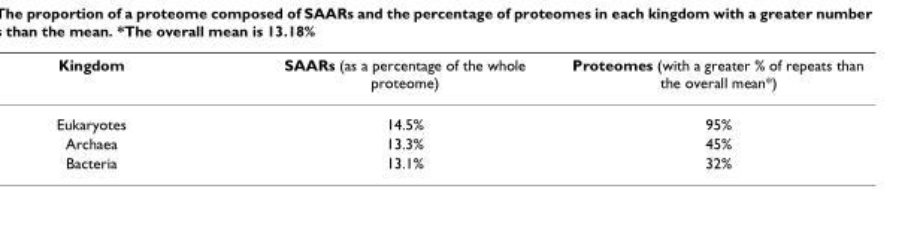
<table><thead><tr><td>Kingdom</td><td>SAARs (as a percentage of the whole proteome)</td><td>Proteomes (with a greater % of repeats than the overall mean*)</td></tr></thead><tbody><tr><td>Eukaryotes</td><td>14.5%</td><td>95%</td></tr><tr><td>Archaea</td><td>13.3%</td><td>45%</td></tr><tr><td>Bacteria</td><td>13.1%</td><td>32%</td></tr></tbody></table>